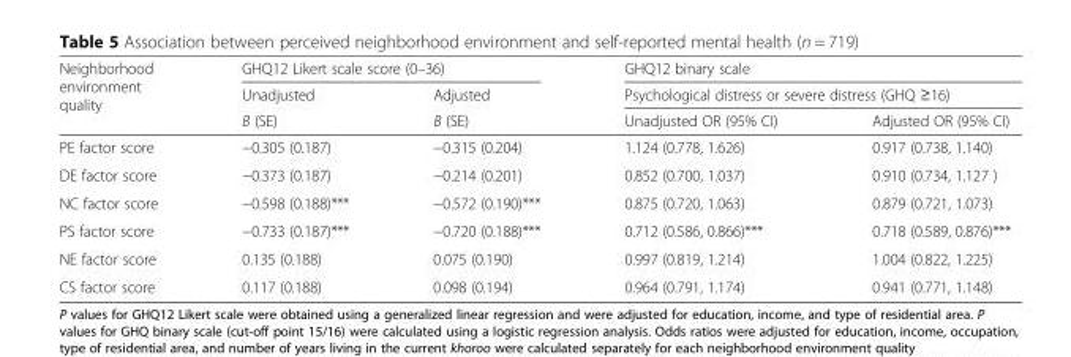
<table><thead><tr><td rowspan="3">Neighborhood environment quality</td><td colspan="2">GHQ12 Likert scale score (0–36)</td><td rowspan="2" colspan="2">GHQ12 binary scale Psychological distress or severe distress (GHQ ≥16)</td></tr><tr><td rowspan="2">Unadjusted B (SE)</td><td rowspan="2">Adjusted B (SE)</td></tr><tr><td>Unadjusted OR (95% CI)</td><td>Adjusted OR (95% CI)</td></tr></thead><tbody><tr><td>PE factor score</td><td>−0.305 (0.187)</td><td>−0.315 (0.204)</td><td>1.124 (0.778, 1.626)</td><td>0.917 (0.738, 1.140)</td></tr><tr><td>DE factor score</td><td>−0.373 (0.187)</td><td>−0.214 (0.201)</td><td>0.852 (0.700, 1.037)</td><td>0.910 (0.734, 1.127 )</td></tr><tr><td>NC factor score</td><td>−0.598 (0.188)***</td><td>−0.572 (0.190)***</td><td>0.875 (0.720, 1.063)</td><td>0.879 (0.721, 1.073)</td></tr><tr><td>PS factor score</td><td>−0.733 (0.187)***</td><td>−0.720 (0.188)***</td><td>0.712 (0.586, 0.866)***</td><td>0.718 (0.589, 0.876)***</td></tr><tr><td>NE factor score</td><td>0.135 (0.188)</td><td>0.075 (0.190)</td><td>0.997 (0.819, 1.214)</td><td>1.004 (0.822, 1.225)</td></tr><tr><td>CS factor score</td><td>0.117 (0.188)</td><td>0.098 (0.194)</td><td>0.964 (0.791, 1.174)</td><td>0.941 (0.771, 1.148)</td></tr></tbody></table>